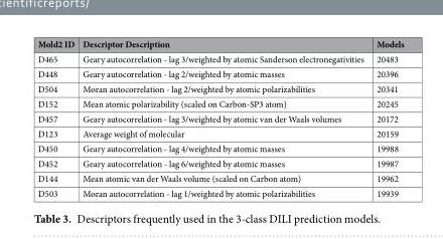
<table><thead><tr><td>Mold2 ID</td><td>Descriptor Description</td><td>Models</td></tr></thead><tbody><tr><td>D465</td><td>Geary autocorrelation - lag 3/weighted by atomic Sanderson electronegativities</td><td>20483</td></tr><tr><td>D448</td><td>Geary autocorrelation - lag 2/weighted by atomic masses</td><td>20396</td></tr><tr><td>D504</td><td>Moran autocorrelation - lag 2/weighted by atomic polarizabilities</td><td>20341</td></tr><tr><td>D152</td><td>Mean atomic polarizability (scaled on Carbon-SP3 atom)</td><td>20245</td></tr><tr><td>D457</td><td>Geary autocorrelation - lag 3/weighted by atomic van der Waals volumes</td><td>20172</td></tr><tr><td>D123</td><td>Average weight of molecular</td><td>20159</td></tr><tr><td>D450</td><td>Geary autocorrelation - lag 4/weighted by atomic masses</td><td>19988</td></tr><tr><td>D452</td><td>Geary autocorrelation - lag 6/weighted by atomic masses</td><td>19987</td></tr><tr><td>D144</td><td>Mean atomic van der Waals volume (scaled on Carbon atom)</td><td>19962</td></tr><tr><td>D503</td><td>Moran autocorrelation - lag 1/weighted by atomic polarizabilities</td><td>19939</td></tr></tbody></table>